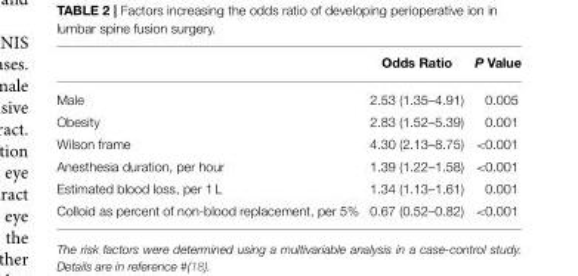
<table><thead><tr><td></td><td>Odds Ratio</td><td>P Value</td></tr></thead><tbody><tr><td>Male</td><td>2.53 (1.35–4.91)</td><td>0.005</td></tr><tr><td>Obesity</td><td>2.83 (1.52–5.39)</td><td>0.001</td></tr><tr><td>Wilson frame</td><td>4.30 (2.13–8.75)</td><td>&lt;0.001</td></tr><tr><td>Anesthesia duration, per hour</td><td>1.39 (1.22–1.58)</td><td>&lt;0.001</td></tr><tr><td>Estimated blood loss, per 1 L</td><td>1.34 (1.13–1.61)</td><td>0.001</td></tr><tr><td>Colloid as percent of non-blood replacement, per 5%</td><td>0.67 (0.52–0.82)</td><td>&lt;0.001</td></tr></tbody></table>